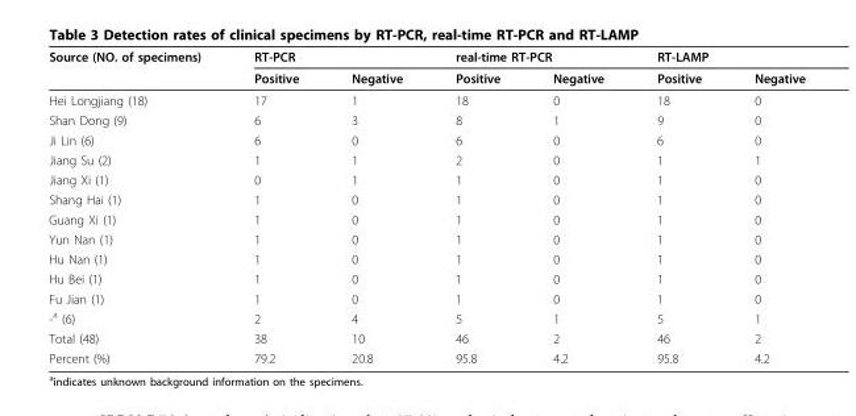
<table><thead><tr><td rowspan="2">Source (NO. of specimens)</td><td colspan="2">RT-PCR</td><td colspan="2">real-time RT-PCR</td><td colspan="2">RT-LAMP</td></tr><tr><td>Positive</td><td>Negative</td><td>Positive</td><td>Negative</td><td>Positive</td><td>Negative</td></tr></thead><tbody><tr><td>Hei Longjiang (18)</td><td>17</td><td>1</td><td>18</td><td>0</td><td>18</td><td>0</td></tr><tr><td>Shan Dong (9)</td><td>6</td><td>3</td><td>8</td><td>1</td><td>9</td><td>0</td></tr><tr><td>Ji Lin (6)</td><td>6</td><td>0</td><td>6</td><td>0</td><td>6</td><td>0</td></tr><tr><td>Jiang Su (2)</td><td>1</td><td>1</td><td>2</td><td>0</td><td>1</td><td>1</td></tr><tr><td>Jiang Xi (1)</td><td>0</td><td>1</td><td>1</td><td>0</td><td>1</td><td>0</td></tr><tr><td>Shang Hai (1)</td><td>1</td><td>0</td><td>1</td><td>0</td><td>1</td><td>0</td></tr><tr><td>Guang Xi (1)</td><td>1</td><td>0</td><td>1</td><td>0</td><td>1</td><td>0</td></tr><tr><td>Yun Nan (1)</td><td>1</td><td>0</td><td>1</td><td>0</td><td>1</td><td>0</td></tr><tr><td>Hu Nan (1)</td><td>1</td><td>0</td><td>1</td><td>0</td><td>1</td><td>0</td></tr><tr><td>Hu Bei (1)</td><td>1</td><td>0</td><td>1</td><td>0</td><td>1</td><td>0</td></tr><tr><td>Fu Jian (1)</td><td>1</td><td>0</td><td>1</td><td>0</td><td>1</td><td>0</td></tr><tr><td>-<sup>a</sup> (6)</td><td>2</td><td>4</td><td>5</td><td>1</td><td>5</td><td>1</td></tr><tr><td>Total (48)</td><td>38</td><td>10</td><td>46</td><td>2</td><td>46</td><td>2</td></tr><tr><td>Percent (%)</td><td>79.2</td><td>20.8</td><td>95.8</td><td>4.2</td><td>95.8</td><td>4.2</td></tr></tbody></table>